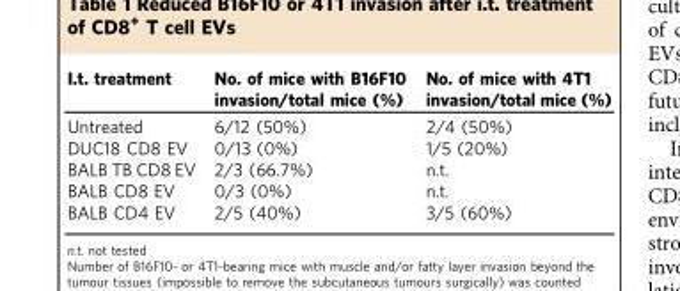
<table><thead><tr><td>I.t. treatment</td><td>No. of mice with B16F10 invasion/total mice (%)</td><td>No. of mice with 4T1 invasion/total mice (%)</td></tr></thead><tbody><tr><td>Untreated</td><td>6/12 (50%)</td><td>2/4 (50%)</td></tr><tr><td>DUC18 CD8 EV</td><td>0/13 (0%)</td><td>1/5 (20%)</td></tr><tr><td>BALB TB CD8 EV</td><td>2/3 (66.7%)</td><td>n.t.</td></tr><tr><td>BALB CD8 EV</td><td>0/3 (0%)</td><td>n.t.</td></tr><tr><td>BALB CD4 EV</td><td>2/5 (40%)</td><td>3/5 (60%)</td></tr></tbody></table>